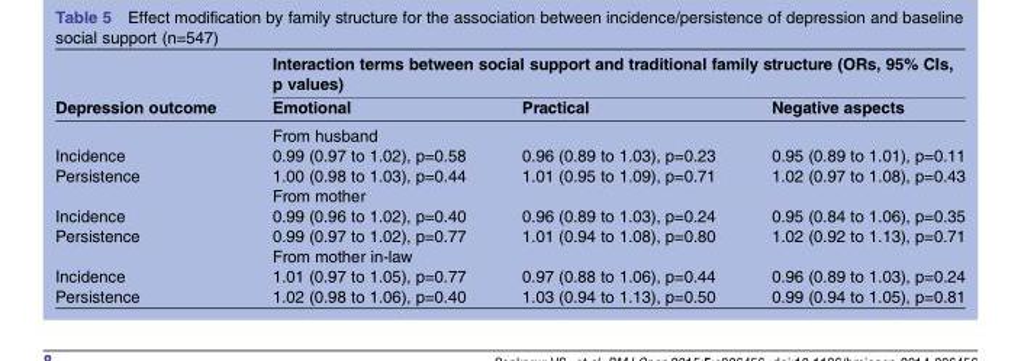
<table><thead><tr><td rowspan="2">Depression outcome</td><td colspan="3">Interaction terms between social support and traditional family structure (ORs, 95% CIs, p values)</td></tr><tr><td>Emotional</td><td>Practical</td><td>Negative aspects</td></tr></thead><tbody><tr><td></td><td colspan="3">From husband</td></tr><tr><td>Incidence</td><td>0.99 (0.97 to 1.02), p=0.58</td><td>0.96 (0.89 to 1.03), p=0.23</td><td>0.95 (0.89 to 1.01), p=0.11</td></tr><tr><td rowspan="2">Persistence</td><td>1.00 (0.98 to 1.03), p=0.44</td><td>1.01 (0.95 to 1.09), p=0.71</td><td>1.02 (0.97 to 1.08), p=0.43</td></tr><tr><td colspan="3">From mother</td></tr><tr><td>Incidence</td><td>0.99 (0.96 to 1.02), p=0.40</td><td>0.96 (0.89 to 1.03), p=0.24</td><td>0.95 (0.84 to 1.06), p=0.35</td></tr><tr><td rowspan="2">Persistence</td><td>0.99 (0.97 to 1.02), p=0.77</td><td>1.01 (0.94 to 1.08), p=0.80</td><td>1.02 (0.92 to 1.13), p=0.71</td></tr><tr><td colspan="3">From mother in-law</td></tr><tr><td>Incidence</td><td>1.01 (0.97 to 1.05), p=0.77</td><td>0.97 (0.88 to 1.06), p=0.44</td><td>0.96 (0.89 to 1.03), p=0.24</td></tr><tr><td>Persistence</td><td>1.02 (0.98 to 1.06), p=0.40</td><td>1.03 (0.94 to 1.13), p=0.50</td><td>0.99 (0.94 to 1.05), p=0.81</td></tr></tbody></table>